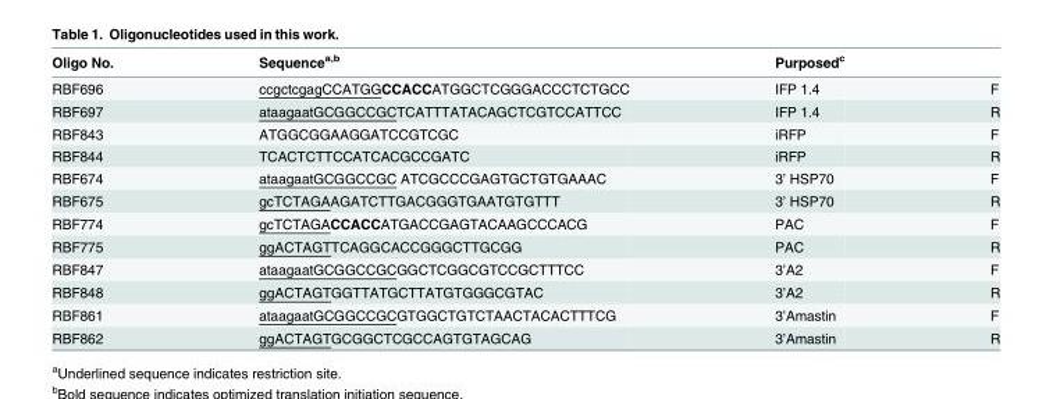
<table><thead><tr><td>Oligo No.</td><td>Sequence<sup>a,b</sup></td><td>Purposed<sup>c</sup></td><td></td></tr></thead><tbody><tr><td>RBF696</td><td>ccgctcgagCCATGGCCACCATGGCTCGGGACCCTCTGCC</td><td>IFP 1.4</td><td>F</td></tr><tr><td>RBF697</td><td>ataagaatGCGGCCGCTCATTTATACAGCTCGTCCATTCC</td><td>IFP 1.4</td><td>R</td></tr><tr><td>RBF843</td><td>ATGGCGGAAGGATCCGTCGC</td><td>iRFP</td><td>F</td></tr><tr><td>RBF844</td><td>TCACTCTTCCATCACGCCGATC</td><td>iRFP</td><td>R</td></tr><tr><td>RBF674</td><td>ataagaatGCGGCCGC ATCGCCCGAGTGCTGTGAAAC</td><td>3’ HSP70</td><td>F</td></tr><tr><td>RBF675</td><td>gcTCTAGAAGATCTTGACGGGTGAATGTGTTT</td><td>3’ HSP70</td><td>R</td></tr><tr><td>RBF774</td><td>gcTCTAGACCACCATGACCGAGTACAAGCCCACG</td><td>PAC</td><td>F</td></tr><tr><td>RBF775</td><td>ggACTAGTTCAGGCACCGGGCTTGCGG</td><td>PAC</td><td>R</td></tr><tr><td>RBF847</td><td>ataagaatGCGGCCGCGGCTCGGCGTCCGCTTTCC</td><td>3’A2</td><td>F</td></tr><tr><td>RBF848</td><td>ggACTAGTGGTTATGCTTATGTGGGCGTAC</td><td>3’A2</td><td>R</td></tr><tr><td>RBF861</td><td>ataagaatGCGGCCGCGTGGCTGTCTAACTACACTTTCG</td><td>3’Amastin</td><td>F</td></tr><tr><td>RBF862</td><td>ggACTAGTGCGGCTCGCCAGTGTAGCAG</td><td>3’Amastin</td><td>R</td></tr></tbody></table>